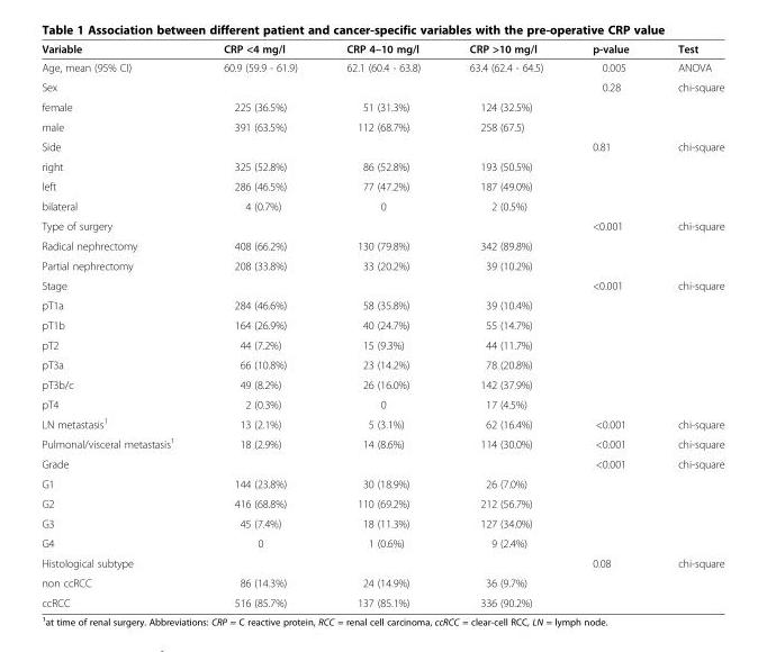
<table><thead><tr><td>Variable</td><td>CRP &lt;4 mg/l</td><td>CRP 4–10 mg/l</td><td>CRP &gt;10 mg/l</td><td>p-value</td><td>Test</td></tr></thead><tbody><tr><td>Age, mean (95% CI)</td><td>60.9 (59.9 - 61.9)</td><td>62.1 (60.4 - 63.8)</td><td>63.4 (62.4 - 64.5)</td><td>0.005</td><td>ANOVA</td></tr><tr><td>Sex</td><td></td><td></td><td></td><td>0.28</td><td>chi-square</td></tr><tr><td>female</td><td>225 (36.5%)</td><td>51 (31.3%)</td><td>124 (32.5%)</td><td></td><td></td></tr><tr><td>male</td><td>391 (63.5%)</td><td>112 (68.7%)</td><td>258 (67.5)</td><td></td><td></td></tr><tr><td>Side</td><td></td><td></td><td></td><td>0.81</td><td>chi-square</td></tr><tr><td>right</td><td>325 (52.8%)</td><td>86 (52.8%)</td><td>193 (50.5%)</td><td></td><td></td></tr><tr><td>left</td><td>286 (46.5%)</td><td>77 (47.2%)</td><td>187 (49.0%)</td><td></td><td></td></tr><tr><td>bilateral</td><td>4 (0.7%)</td><td>0</td><td>2 (0.5%)</td><td></td><td></td></tr><tr><td>Type of surgery</td><td></td><td></td><td></td><td>&lt;0.001</td><td>chi-square</td></tr><tr><td>Radical nephrectomy</td><td>408 (66.2%)</td><td>130 (79.8%)</td><td>342 (89.8%)</td><td></td><td></td></tr><tr><td>Partial nephrectomy</td><td>208 (33.8%)</td><td>33 (20.2%)</td><td>39 (10.2%)</td><td></td><td></td></tr><tr><td>Stage</td><td></td><td></td><td></td><td>&lt;0.001</td><td>chi-square</td></tr><tr><td>pT1a</td><td>284 (46.6%)</td><td>58 (35.8%)</td><td>39 (10.4%)</td><td></td><td></td></tr><tr><td>pT1b</td><td>164 (26.9%)</td><td>40 (24.7%)</td><td>55 (14.7%)</td><td></td><td></td></tr><tr><td>pT2</td><td>44 (7.2%)</td><td>15 (9.3%)</td><td>44 (11.7%)</td><td></td><td></td></tr><tr><td>pT3a</td><td>66 (10.8%)</td><td>23 (14.2%)</td><td>78 (20.8%)</td><td></td><td></td></tr><tr><td>pT3b/c</td><td>49 (8.2%)</td><td>26 (16.0%)</td><td>142 (37.9%)</td><td></td><td></td></tr><tr><td>pT4</td><td>2 (0.3%)</td><td>0</td><td>17 (4.5%)</td><td></td><td></td></tr><tr><td>LN metastasis<sup>1</sup></td><td>13 (2.1%)</td><td>5 (3.1%)</td><td>62 (16.4%)</td><td>&lt;0.001</td><td>chi-square</td></tr><tr><td>Pulmonal/visceral metastasis<sup>1</sup></td><td>18 (2.9%)</td><td>14 (8.6%)</td><td>114 (30.0%)</td><td>&lt;0.001</td><td>chi-square</td></tr><tr><td>Grade</td><td></td><td></td><td></td><td>&lt;0.001</td><td>chi-square</td></tr><tr><td>G1</td><td>144 (23.8%)</td><td>30 (18.9%)</td><td>26 (7.0%)</td><td></td><td></td></tr><tr><td>G2</td><td>416 (68.8%)</td><td>110 (69.2%)</td><td>212 (56.7%)</td><td></td><td></td></tr><tr><td>G3</td><td>45 (7.4%)</td><td>18 (11.3%)</td><td>127 (34.0%)</td><td></td><td></td></tr><tr><td>G4</td><td>0</td><td>1 (0.6%)</td><td>9 (2.4%)</td><td></td><td></td></tr><tr><td>Histological subtype</td><td></td><td></td><td></td><td>0.08</td><td>chi-square</td></tr><tr><td>non ccRCC</td><td>86 (14.3%)</td><td>24 (14.9%)</td><td>36 (9.7%)</td><td></td><td></td></tr><tr><td>ccRCC</td><td>516 (85.7%)</td><td>137 (85.1%)</td><td>336 (90.2%)</td><td></td><td></td></tr></tbody></table>